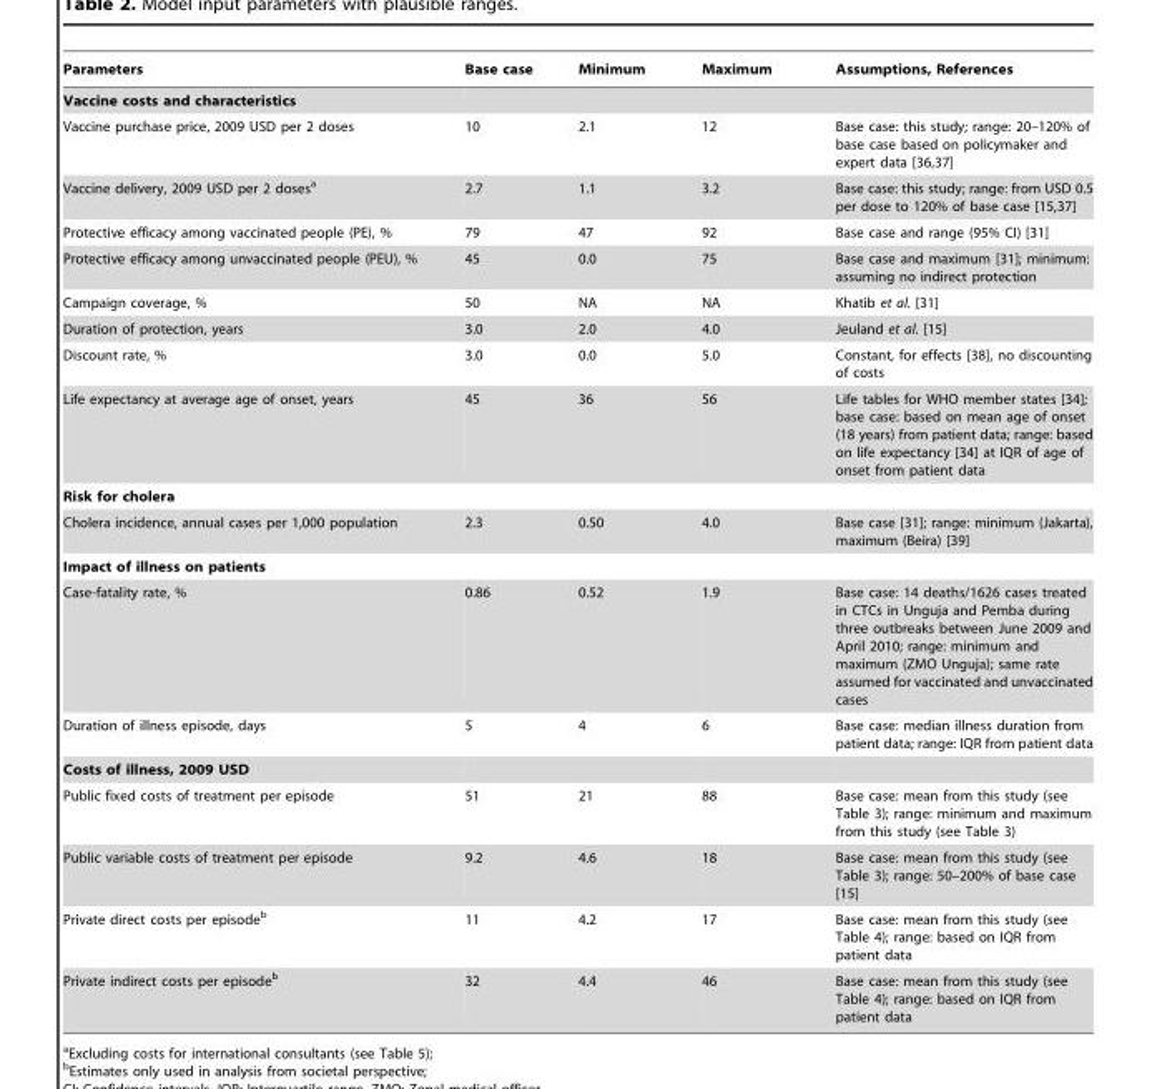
<table><thead><tr><td>Parameters</td><td>Base case</td><td>Minimum</td><td>Maximum</td><td>Assumptions, References</td></tr></thead><tbody><tr><td colspan="5">Vaccine costs and characteristics</td></tr><tr><td>Vaccine purchase price, 2009 USD per 2 doses</td><td>10</td><td>2.1</td><td>12</td><td>Base case: this study; range: 20–120% of base case based on policymaker and expert data [36,37]</td></tr><tr><td>Vaccine delivery, 2009 USD per 2 doses<sup>a</sup></td><td>2.7</td><td>1.1</td><td>3.2</td><td>Base case: this study; range: from USD 0.5 per dose to 120% of base case [15,37]</td></tr><tr><td>Protective efficacy among vaccinated people (PE), %</td><td>79</td><td>47</td><td>92</td><td>Base case and range (95% CI) [31]</td></tr><tr><td>Protective efficacy among unvaccinated people (PEU), %</td><td>45</td><td>0.0</td><td>75</td><td>Base case and maximum [31]; minimum: assuming no indirect protection</td></tr><tr><td>Campaign coverage, %</td><td>50</td><td>NA</td><td>NA</td><td>Khatib et al. [31]</td></tr><tr><td>Duration of protection, years</td><td>3.0</td><td>2.0</td><td>4.0</td><td>Jeuland et al. [15]</td></tr><tr><td>Discount rate, %</td><td>3.0</td><td>0.0</td><td>5.0</td><td>Constant, for effects [38], no discounting of costs</td></tr><tr><td>Life expectancy at average age of onset, years</td><td>45</td><td>36</td><td>56</td><td>Life tables for WHO member states [34]; base case: based on mean age of onset (18 years) from patient data; range: based on life expectancy [34] at IQR of age of onset from patient data</td></tr><tr><td colspan="5">Risk for cholera</td></tr><tr><td>Cholera incidence, annual cases per 1,000 population</td><td>2.3</td><td>0.50</td><td>4.0</td><td>Base case [31]; range: minimum (Jakarta), maximum (Beira) [39]</td></tr><tr><td colspan="5">Impact of illness on patients</td></tr><tr><td>Case-fatality rate, %</td><td>0.86</td><td>0.52</td><td>1.9</td><td>Base case: 14 deaths/1626 cases treated in CTCs in Unguja and Pemba during three outbreaks between June 2009 and April 2010; range: minimum and maximum (ZMO Unguja); same rate assumed for vaccinated and unvaccinated cases</td></tr><tr><td>Duration of illness episode, days</td><td>5</td><td>4</td><td>6</td><td>Base case: median illness duration from patient data; range: IQR from patient data</td></tr><tr><td colspan="5">Costs of illness, 2009 USD</td></tr><tr><td>Public fixed costs of treatment per episode</td><td>51</td><td>21</td><td>88</td><td>Base case: mean from this study (see Table 3); range: minimum and maximum from this study (see Table 3)</td></tr><tr><td>Public variable costs of treatment per episode</td><td>9.2</td><td>4.6</td><td>18</td><td>Base case: mean from this study (see Table 3); range: 50–200% of base case [15]</td></tr><tr><td>Private direct costs per episode<sup>b</sup></td><td>11</td><td>4.2</td><td>17</td><td>Base case: mean from this study (see Table 4); range: based on IQR from patient data</td></tr><tr><td>Private indirect costs per episode<sup>b</sup></td><td>32</td><td>4.4</td><td>46</td><td>Base case: mean from this study (see Table 4); range: based on IQR from patient data</td></tr></tbody></table>